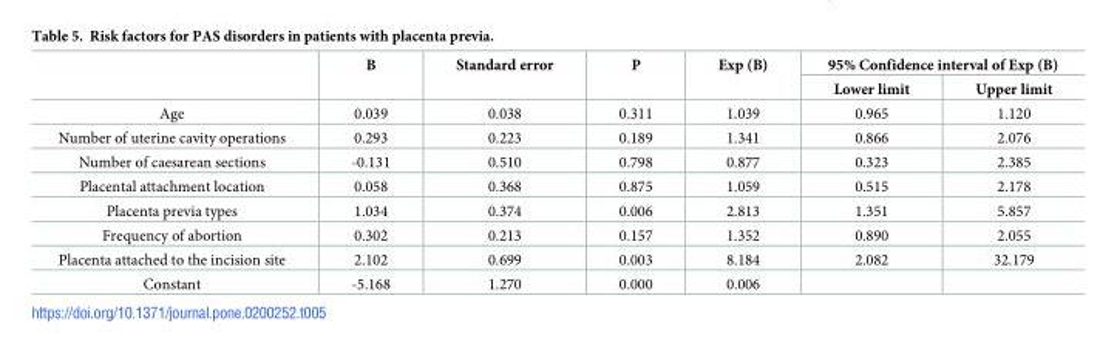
<table><thead><tr><td rowspan="2"></td><td rowspan="2">B</td><td rowspan="2">Standard error</td><td rowspan="2">P</td><td rowspan="2">Exp (B)</td><td colspan="2">95% Confidence interval of Exp (B)</td></tr><tr><td>Lower limit</td><td>Upper limit</td></tr></thead><tbody><tr><td>Age</td><td>0.039</td><td>0.038</td><td>0.311</td><td>1.039</td><td>0.965</td><td>1.120</td></tr><tr><td>Number of uterine cavity operations</td><td>0.293</td><td>0.223</td><td>0.189</td><td>1.341</td><td>0.866</td><td>2.076</td></tr><tr><td>Number of caesarean sections</td><td>-0.131</td><td>0.510</td><td>0.798</td><td>0.877</td><td>0.323</td><td>2.385</td></tr><tr><td>Placental attachment location</td><td>0.058</td><td>0.368</td><td>0.875</td><td>1.059</td><td>0.515</td><td>2.178</td></tr><tr><td>Placenta previa types</td><td>1.034</td><td>0.374</td><td>0.006</td><td>2.813</td><td>1.351</td><td>5.857</td></tr><tr><td>Frequency of abortion</td><td>0.302</td><td>0.213</td><td>0.157</td><td>1.352</td><td>0.890</td><td>2.055</td></tr><tr><td>Placenta attached to the incision site</td><td>2.102</td><td>0.699</td><td>0.003</td><td>8.184</td><td>2.082</td><td>32.179</td></tr><tr><td>Constant</td><td>-5.168</td><td>1.270</td><td>0.000</td><td>0.006</td><td></td><td></td></tr></tbody></table>